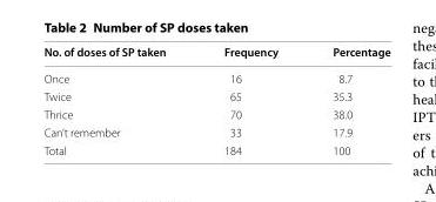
<table><thead><tr><td>No. of doses of SP taken</td><td>Frequency</td><td>Percentage</td></tr></thead><tbody><tr><td>Once</td><td>16</td><td>8.7</td></tr><tr><td>Twice</td><td>65</td><td>35.3</td></tr><tr><td>Thrice</td><td>70</td><td>38.0</td></tr><tr><td>Can’t remember</td><td>33</td><td>17.9</td></tr><tr><td>Total</td><td>184</td><td>100</td></tr></tbody></table>